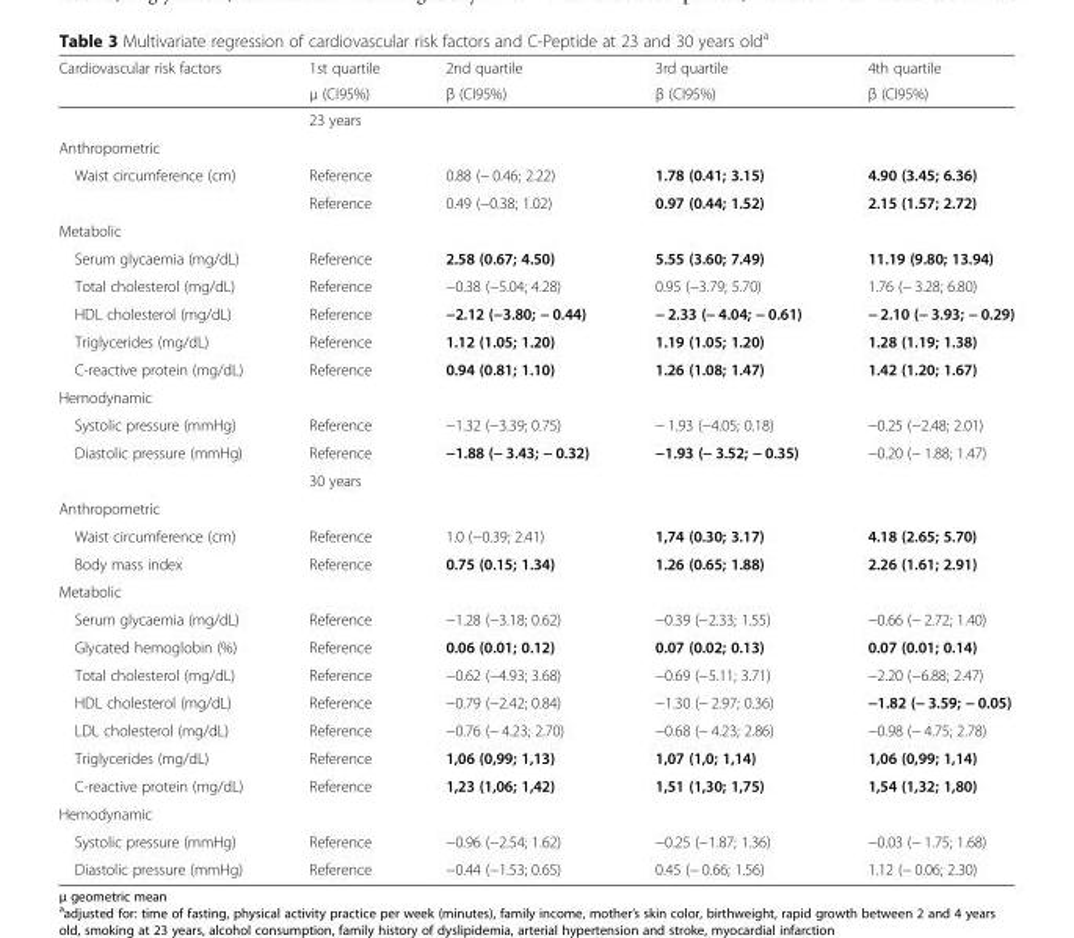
<table><thead><tr><td rowspan="2">Cardiovascular risk factors</td><td rowspan="2">1st quartile μ (CI95%)</td><td rowspan="2">2nd quartile β (CI95%)</td><td rowspan="2">3rd quartile β (CI95%)</td><td rowspan="2">4th quartile β (CI95%)</td></tr><tr></tr></thead><tbody><tr><td></td><td colspan="4">23 years</td></tr><tr><td colspan="5">Anthropometric</td></tr><tr><td rowspan="2">Waist circumference (cm)</td><td>Reference</td><td>0.88 (− 0.46; 2.22)</td><td>1.78 (0.41; 3.15)</td><td>4.90 (3.45; 6.36)</td></tr><tr><td>Reference</td><td>0.49 (−0.38; 1.02)</td><td>0.97 (0.44; 1.52)</td><td>2.15 (1.57; 2.72)</td></tr><tr><td colspan="5">Metabolic</td></tr><tr><td>Serum glycaemia (mg/dL)</td><td>Reference</td><td>2.58 (0.67; 4.50)</td><td>5.55 (3.60; 7.49)</td><td>11.19 (9.80; 13.94)</td></tr><tr><td>Total cholesterol (mg/dL)</td><td>Reference</td><td>−0.38 (−5.04; 4.28)</td><td>0.95 (−3.79; 5.70)</td><td>1.76 (− 3.28; 6.80)</td></tr><tr><td>HDL cholesterol (mg/dL)</td><td>Reference</td><td>−2.12 (−3.80; − 0.44)</td><td>− 2.33 (− 4.04; − 0.61)</td><td>− 2.10 (− 3.93; − 0.29)</td></tr><tr><td>Triglycerides (mg/dL)</td><td>Reference</td><td>1.12 (1.05; 1.20)</td><td>1.19 (1.05; 1.20)</td><td>1.28 (1.19; 1.38)</td></tr><tr><td>C-reactive protein (mg/dL)</td><td>Reference</td><td>0.94 (0.81; 1.10)</td><td>1.26 (1.08; 1.47)</td><td>1.42 (1.20; 1.67)</td></tr><tr><td colspan="5">Hemodynamic</td></tr><tr><td>Systolic pressure (mmHg)</td><td>Reference</td><td>−1.32 (−3.39; 0.75)</td><td>− 1.93 (−4.05; 0.18)</td><td>−0.25 (−2.48; 2.01)</td></tr><tr><td rowspan="2">Diastolic pressure (mmHg)</td><td>Reference</td><td>−1.88 (− 3.43; − 0.32)</td><td>−1.93 (− 3.52; − 0.35)</td><td>−0.20 (− 1.88; 1.47)</td></tr><tr><td colspan="4">30 years</td></tr><tr><td colspan="5">Anthropometric</td></tr><tr><td>Waist circumference (cm)</td><td>Reference</td><td>1.0 (−0.39; 2.41)</td><td>1,74 (0.30; 3.17)</td><td>4.18 (2.65; 5.70)</td></tr><tr><td>Body mass index</td><td>Reference</td><td>0.75 (0.15; 1.34)</td><td>1.26 (0.65; 1.88)</td><td>2.26 (1.61; 2.91)</td></tr><tr><td colspan="5">Metabolic</td></tr><tr><td>Serum glycaemia (mg/dL)</td><td>Reference</td><td>−1.28 (−3.18; 0.62)</td><td>−0.39 (−2.33; 1.55)</td><td>−0.66 (− 2.72; 1.40)</td></tr><tr><td>Glycated hemoglobin (%)</td><td>Reference</td><td>0.06 (0.01; 0.12)</td><td>0.07 (0.02; 0.13)</td><td>0.07 (0.01; 0.14)</td></tr><tr><td>Total cholesterol (mg/dL)</td><td>Reference</td><td>−0.62 (−4.93; 3.68)</td><td>−0.69 (−5.11; 3.71)</td><td>−2.20 (−6.88; 2.47)</td></tr><tr><td>HDL cholesterol (mg/dL)</td><td>Reference</td><td>−0.79 (−2.42; 0.84)</td><td>−1.30 (− 2.97; 0.36)</td><td>−1.82 (− 3.59; − 0.05)</td></tr><tr><td>LDL cholesterol (mg/dL)</td><td>Reference</td><td>−0.76 (− 4.23; 2.70)</td><td>−0.68 (− 4.23; 2.86)</td><td>−0.98 (− 4.75; 2.78)</td></tr><tr><td>Triglycerides (mg/dL)</td><td>Reference</td><td>1,06 (0,99; 1,13)</td><td>1,07 (1,0; 1,14)</td><td>1,06 (0,99; 1,14)</td></tr><tr><td>C-reactive protein (mg/dL)</td><td>Reference</td><td>1,23 (1,06; 1,42)</td><td>1,51 (1,30; 1,75)</td><td>1,54 (1,32; 1,80)</td></tr><tr><td colspan="5">Hemodynamic</td></tr><tr><td>Systolic pressure (mmHg)</td><td>Reference</td><td>−0.96 (−2.54; 1.62)</td><td>−0.25 (−1.87; 1.36)</td><td>−0.03 (− 1.75; 1.68)</td></tr><tr><td>Diastolic pressure (mmHg)</td><td>Reference</td><td>−0.44 (−1.53; 0.65)</td><td>0.45 (− 0.66; 1.56)</td><td>1.12 (− 0.06; 2.30)</td></tr></tbody></table>